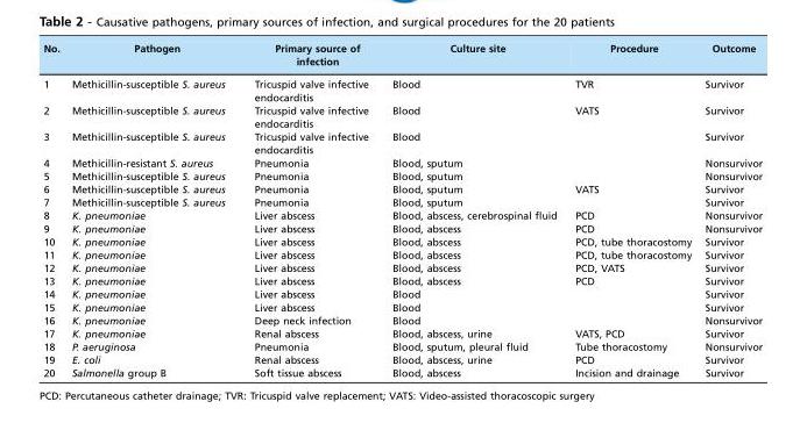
<table><thead><tr><td>No.</td><td>Pathogen</td><td>Primary source of infection</td><td>Culture site</td><td>Procedure</td><td>Outcome</td></tr></thead><tbody><tr><td>1</td><td>Methicillin-susceptible S. aureus</td><td>Tricuspid valve infective endocarditis</td><td>Blood</td><td>TVR</td><td>Survivor</td></tr><tr><td>2</td><td>Methicillin-susceptible S. aureus</td><td>Tricuspid valve infective endocarditis</td><td>Blood</td><td>VATS</td><td>Survivor</td></tr><tr><td>3</td><td>Methicillin-susceptible S. aureus</td><td>Tricuspid valve infective endocarditis</td><td>Blood</td><td></td><td>Survivor</td></tr><tr><td>4</td><td>Methicillin-resistant S. aureus</td><td>Pneumonia</td><td>Blood, sputum</td><td></td><td>Nonsurvivor</td></tr><tr><td>5</td><td>Methicillin-susceptible S. aureus</td><td>Pneumonia</td><td>Blood, sputum</td><td></td><td>Nonsurvivor</td></tr><tr><td>6</td><td>Methicillin-susceptible S. aureus</td><td>Pneumonia</td><td>Blood, sputum</td><td>VATS</td><td>Survivor</td></tr><tr><td>7</td><td>Methicillin-susceptible S. aureus</td><td>Pneumonia</td><td>Blood, sputum</td><td></td><td>Survivor</td></tr><tr><td>8</td><td>K. pneumoniae</td><td>Liver abscess</td><td>Blood, abscess, cerebrospinal fluid</td><td>PCD</td><td>Nonsurvivor</td></tr><tr><td>9</td><td>K. pneumoniae</td><td>Liver abscess</td><td>Blood, abscess</td><td>PCD</td><td>Nonsurvivor</td></tr><tr><td>10</td><td>K. pneumoniae</td><td>Liver abscess</td><td>Blood, abscess</td><td>PCD, tube thoracostomy</td><td>Survivor</td></tr><tr><td>11</td><td>K. pneumoniae</td><td>Liver abscess</td><td>Blood, abscess</td><td>PCD, tube thoracostomy</td><td>Survivor</td></tr><tr><td>12</td><td>K. pneumoniae</td><td>Liver abscess</td><td>Blood, abscess</td><td>PCD, VATS</td><td>Survivor</td></tr><tr><td>13</td><td>K. pneumoniae</td><td>Liver abscess</td><td>Blood, abscess</td><td>PCD</td><td>Survivor</td></tr><tr><td>14</td><td>K. pneumoniae</td><td>Liver abscess</td><td>Blood</td><td></td><td>Survivor</td></tr><tr><td>15</td><td>K. pneumoniae</td><td>Liver abscess</td><td>Blood</td><td></td><td>Survivor</td></tr><tr><td>16</td><td>K. pneumoniae</td><td>Deep neck infection</td><td>Blood</td><td></td><td>Nonsurvivor</td></tr><tr><td>17</td><td>K. pneumoniae</td><td>Renal abscess</td><td>Blood, abscess, urine</td><td>VATS, PCD</td><td>Survivor</td></tr><tr><td>18</td><td>P. aeruginosa</td><td>Pneumonia</td><td>Blood, sputum, pleural fluid</td><td>Tube thoracostomy</td><td>Nonsurvivor</td></tr><tr><td>19</td><td>E. coli</td><td>Renal abscess</td><td>Blood, abscess, urine</td><td>PCD</td><td>Survivor</td></tr><tr><td>20</td><td>Salmonella group B</td><td>Soft tissue abscess</td><td>Blood, abscess</td><td>Incision and drainage</td><td>Survivor</td></tr></tbody></table>